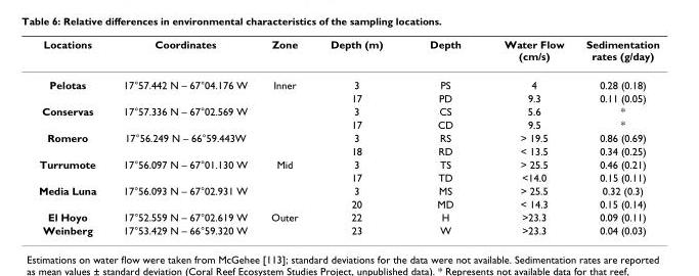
<table><thead><tr><td>Locations</td><td>Coordinates</td><td>Zone</td><td>Depth (m)</td><td>Depth</td><td>Water Flow (cm/s)</td><td>Sedimentation rates (g/day)</td></tr></thead><tbody><tr><td rowspan="2">Pelotas</td><td>17°57.442 N – 67°04.176 W</td><td>Inner</td><td>3</td><td>PS</td><td>4</td><td>0.28 (0.18)</td></tr><tr><td></td><td></td><td>17</td><td>PD</td><td>9.3</td><td>0.11 (0.05)</td></tr><tr><td rowspan="2">Conservas</td><td>17°57.336 N – 67°02.569 W</td><td></td><td>3</td><td>CS</td><td>5.6</td><td>*</td></tr><tr><td></td><td></td><td>17</td><td>CD</td><td>9.5</td><td>*</td></tr><tr><td rowspan="2">Romero</td><td>17°56.249 N – 66°59.443W</td><td></td><td>3</td><td>RS</td><td>&gt; 19.5</td><td>0.86 (0.69)</td></tr><tr><td></td><td></td><td>18</td><td>RD</td><td>&lt; 13.5</td><td>0.34 (0.25)</td></tr><tr><td rowspan="2">Turrumote</td><td>17°56.097 N – 67°01.130 W</td><td>Mid</td><td>3</td><td>TS</td><td>&gt; 25.5</td><td>0.46 (0.21)</td></tr><tr><td></td><td></td><td>17</td><td>TD</td><td>&lt;14.0</td><td>0.15 (0.11)</td></tr><tr><td rowspan="2">Media Luna</td><td>17°56.093 N – 67°02.931 W</td><td></td><td>3</td><td>MS</td><td>&gt; 25.5</td><td>0.32 (0.3)</td></tr><tr><td></td><td></td><td>20</td><td>MD</td><td>&lt; 14.3</td><td>0.15 (0.14)</td></tr><tr><td>El Hoyo</td><td>17°52.559 N – 67°02.619 W</td><td>Outer</td><td>22</td><td>H</td><td>&gt;23.3</td><td>0.09 (0.11)</td></tr><tr><td>Weinberg</td><td>17°53.429 N – 66°59.320 W</td><td></td><td>23</td><td>W</td><td>&gt;23.3</td><td>0.04 (0.03)</td></tr></tbody></table>